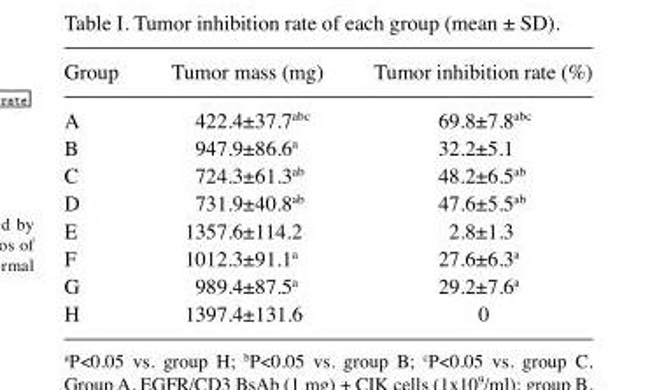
<table><thead><tr><td>Group</td><td>Tumor mass (mg)</td><td>Tumor inhibition rate (%)</td></tr></thead><tbody><tr><td>A</td><td>422.4±37.7<sup>abc</sup></td><td>69.8±7.8<sup>abc</sup></td></tr><tr><td>B</td><td>947.9±86.6<sup>a</sup></td><td>32.2±5.1</td></tr><tr><td>C</td><td>724.3±61.3<sup>ab</sup></td><td>48.2±6.5<sup>ab</sup></td></tr><tr><td>D</td><td>731.9±40.8<sup>ab</sup></td><td>47.6±5.5<sup>ab</sup></td></tr><tr><td>E</td><td>1357.6±114.2</td><td>2.8±1.3</td></tr><tr><td>F</td><td>1012.3±91.1<sup>a</sup></td><td>27.6±6.3<sup>a</sup></td></tr><tr><td>G</td><td>989.4±87.5<sup>a</sup></td><td>29.2±7.6<sup>a</sup></td></tr><tr><td>H</td><td>1397.4±131.6</td><td>0</td></tr></tbody></table>